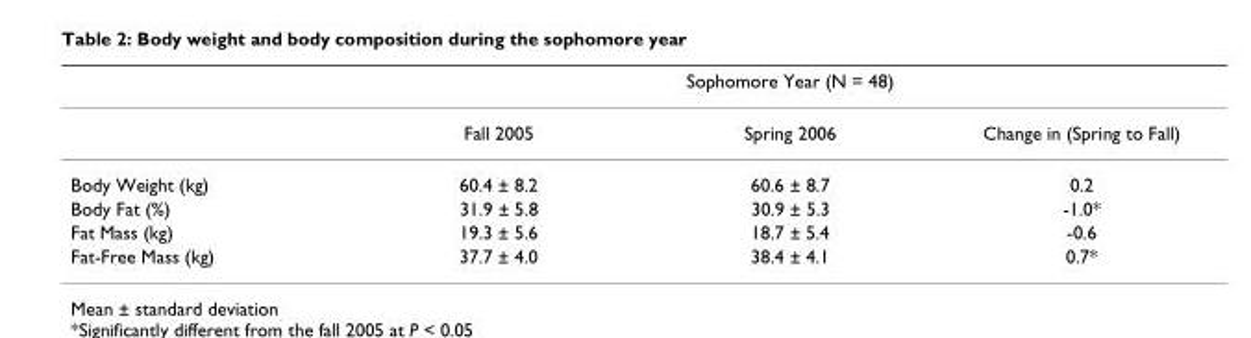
<table><thead><tr><td rowspan="2"></td><td colspan="3">Sophomore Year (N = 48)</td></tr><tr><td>Fall 2005</td><td>Spring 2006</td><td>Change in (Spring to Fall)</td></tr></thead><tbody><tr><td>Body Weight (kg)</td><td>60.4 ± 8.2</td><td>60.6 ± 8.7</td><td>0.2</td></tr><tr><td>Body Fat (%)</td><td>31.9 ± 5.8</td><td>30.9 ± 5.3</td><td>-1.0*</td></tr><tr><td>Fat Mass (kg)</td><td>19.3 ± 5.6</td><td>18.7 ± 5.4</td><td>-0.6</td></tr><tr><td>Fat-Free Mass (kg)</td><td>37.7 ± 4.0</td><td>38.4 ± 4.1</td><td>0.7*</td></tr></tbody></table>